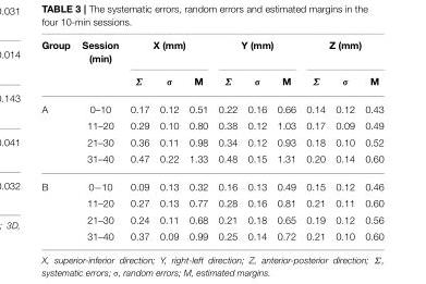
<table><thead><tr><td rowspan="2">Group</td><td rowspan="2">Session (min)</td><td colspan="3">X (mm)</td><td colspan="3">Y (mm)</td><td colspan="3">Z (mm)</td></tr><tr><td>Σ</td><td>σ</td><td>M</td><td>Σ</td><td>σ</td><td>M</td><td>Σ</td><td>σ</td><td>M</td></tr></thead><tbody><tr><td rowspan="4">A</td><td>0–10</td><td>0.17</td><td>0.12</td><td>0.51</td><td>0.22</td><td>0.16</td><td>0.66</td><td>0.14</td><td>0.12</td><td>0.43</td></tr><tr><td>11–20</td><td>0.29</td><td>0.10</td><td>0.80</td><td>0.38</td><td>0.12</td><td>1.03</td><td>0.17</td><td>0.09</td><td>0.49</td></tr><tr><td>21–30</td><td>0.36</td><td>0.11</td><td>0.98</td><td>0.34</td><td>0.12</td><td>0.93</td><td>0.18</td><td>0.10</td><td>0.52</td></tr><tr><td>31–40</td><td>0.47</td><td>0.22</td><td>1.33</td><td>0.48</td><td>0.15</td><td>1.31</td><td>0.20</td><td>0.14</td><td>0.60</td></tr><tr><td rowspan="4">B</td><td>0−10</td><td>0.09</td><td>0.13</td><td>0.32</td><td>0.16</td><td>0.13</td><td>0.49</td><td>0.15</td><td>0.12</td><td>0.46</td></tr><tr><td>11–20</td><td>0.27</td><td>0.13</td><td>0.77</td><td>0.28</td><td>0.16</td><td>0.81</td><td>0.21</td><td>0.11</td><td>0.60</td></tr><tr><td>21–30</td><td>0.24</td><td>0.11</td><td>0.68</td><td>0.21</td><td>0.18</td><td>0.65</td><td>0.19</td><td>0.12</td><td>0.56</td></tr><tr><td>31–40</td><td>0.37</td><td>0.09</td><td>0.99</td><td>0.25</td><td>0.14</td><td>0.72</td><td>0.21</td><td>0.10</td><td>0.60</td></tr></tbody></table>